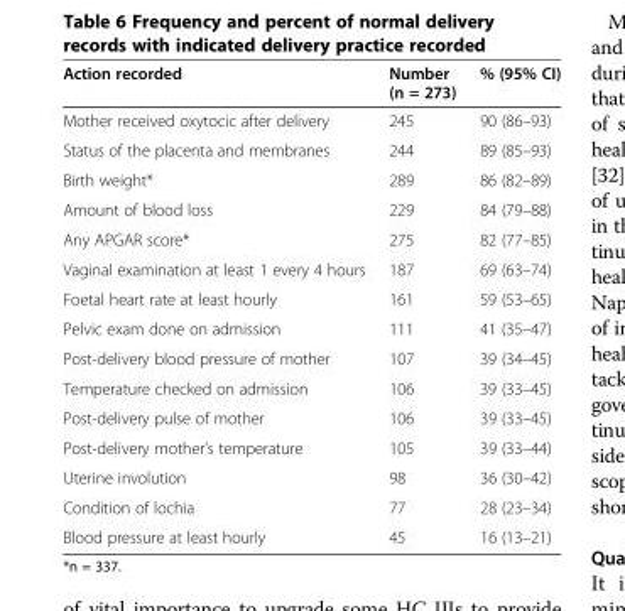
<table><thead><tr><td>Action recorded</td><td>Number (n = 273)</td><td>% (95% CI)</td></tr></thead><tbody><tr><td>Mother received oxytocic after delivery</td><td>245</td><td>90 (86–93)</td></tr><tr><td>Status of the placenta and membranes</td><td>244</td><td>89 (85–93)</td></tr><tr><td>Birth weight*</td><td>289</td><td>86 (82–89)</td></tr><tr><td>Amount of blood loss</td><td>229</td><td>84 (79–88)</td></tr><tr><td>Any APGAR score*</td><td>275</td><td>82 (77–85)</td></tr><tr><td>Vaginal examination at least 1 every 4 hours</td><td>187</td><td>69 (63–74)</td></tr><tr><td>Foetal heart rate at least hourly</td><td>161</td><td>59 (53–65)</td></tr><tr><td>Pelvic exam done on admission</td><td>111</td><td>41 (35–47)</td></tr><tr><td>Post-delivery blood pressure of mother</td><td>107</td><td>39 (34–45)</td></tr><tr><td>Temperature checked on admission</td><td>106</td><td>39 (33–45)</td></tr><tr><td>Post-delivery pulse of mother</td><td>106</td><td>39 (33–45)</td></tr><tr><td>Post-delivery mother’s temperature</td><td>105</td><td>39 (33–44)</td></tr><tr><td>Uterine involution</td><td>98</td><td>36 (30–42)</td></tr><tr><td>Condition of lochia</td><td>77</td><td>28 (23–34)</td></tr><tr><td>Blood pressure at least hourly</td><td>45</td><td>16 (13–21)</td></tr></tbody></table>